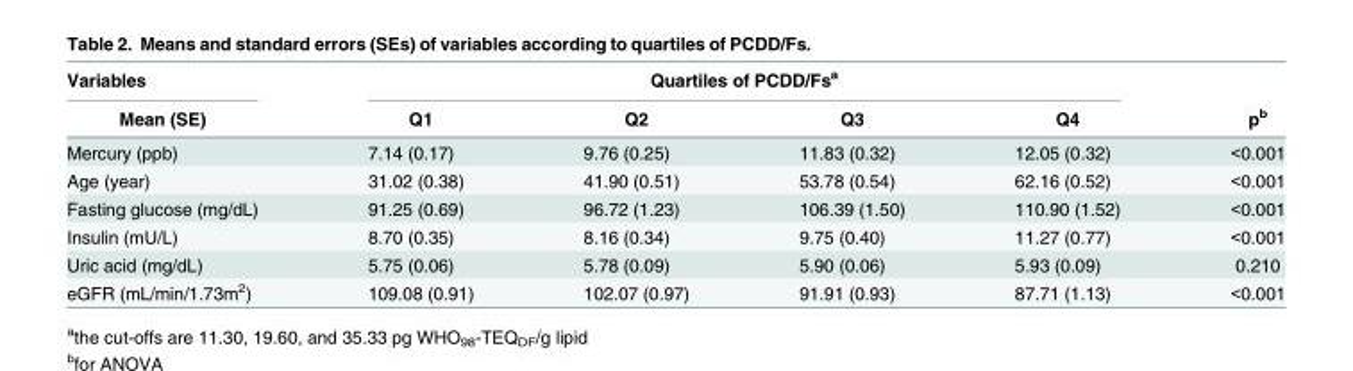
<table><thead><tr><td rowspan="2">Variables Mean (SE)</td><td colspan="4">Quartiles of PCDD/Fs<sup>a</sup></td><td rowspan="2">p<sup>b</sup></td></tr><tr><td>Q1</td><td>Q2</td><td>Q3</td><td>Q4</td></tr></thead><tbody><tr><td>Mercury (ppb)</td><td>7.14 (0.17)</td><td>9.76 (0.25)</td><td>11.83 (0.32)</td><td>12.05 (0.32)</td><td>&lt;0.001</td></tr><tr><td>Age (year)</td><td>31.02 (0.38)</td><td>41.90 (0.51)</td><td>53.78 (0.54)</td><td>62.16 (0.52)</td><td>&lt;0.001</td></tr><tr><td>Fasting glucose (mg/dL)</td><td>91.25 (0.69)</td><td>96.72 (1.23)</td><td>106.39 (1.50)</td><td>110.90 (1.52)</td><td>&lt;0.001</td></tr><tr><td>Insulin (mU/L)</td><td>8.70 (0.35)</td><td>8.16 (0.34)</td><td>9.75 (0.40)</td><td>11.27 (0.77)</td><td>&lt;0.001</td></tr><tr><td>Uric acid (mg/dL)</td><td>5.75 (0.06)</td><td>5.78 (0.09)</td><td>5.90 (0.06)</td><td>5.93 (0.09)</td><td>0.210</td></tr><tr><td>eGFR (mL/min/1.73m<sup>2</sup>)</td><td>109.08 (0.91)</td><td>102.07 (0.97)</td><td>91.91 (0.93)</td><td>87.71 (1.13)</td><td>&lt;0.001</td></tr></tbody></table>